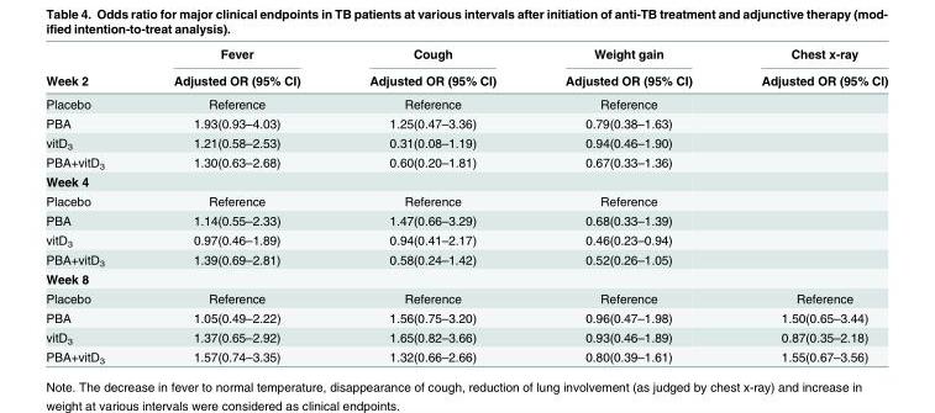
<table><thead><tr><td rowspan="2">Week 2</td><td rowspan="2">Fever Adjusted OR (95% CI)</td><td rowspan="2">Cough Adjusted OR (95% CI)</td><td rowspan="2">Weight gain Adjusted OR (95% CI)</td><td rowspan="2">Chest x-ray Adjusted OR (95% CI)</td></tr><tr></tr></thead><tbody><tr><td>Placebo</td><td>Reference</td><td>Reference</td><td>Reference</td><td></td></tr><tr><td>PBA</td><td>1.93(0.93–4.03)</td><td>1.25(0.47–3.36)</td><td>0.79(0.38–1.63)</td><td></td></tr><tr><td>vitD<sub>3</sub></td><td>1.21(0.58–2.53)</td><td>0.31(0.08–1.19)</td><td>0.94(0.46–1.90)</td><td></td></tr><tr><td>PBA+vitD<sub>3</sub></td><td>1.30(0.63–2.68)</td><td>0.60(0.20–1.81)</td><td>0.67(0.33–1.36)</td><td></td></tr><tr><td colspan="5">Week 4</td></tr><tr><td>Placebo</td><td>Reference</td><td>Reference</td><td>Reference</td><td></td></tr><tr><td>PBA</td><td>1.14(0.55–2.33)</td><td>1.47(0.66–3.29)</td><td>0.68(0.33–1.39)</td><td></td></tr><tr><td>vitD<sub>3</sub></td><td>0.97(0.46–1.89)</td><td>0.94(0.41–2.17)</td><td>0.46(0.23–0.94)</td><td></td></tr><tr><td>PBA+vitD<sub>3</sub></td><td>1.39(0.69–2.81)</td><td>0.58(0.24–1.42)</td><td>0.52(0.26–1.05)</td><td></td></tr><tr><td colspan="5">Week 8</td></tr><tr><td>Placebo</td><td>Reference</td><td>Reference</td><td>Reference</td><td>Reference</td></tr><tr><td>PBA</td><td>1.05(0.49–2.22)</td><td>1.56(0.75–3.20)</td><td>0.96(0.47–1.98)</td><td>1.50(0.65–3.44)</td></tr><tr><td>vitD<sub>3</sub></td><td>1.37(0.65–2.92)</td><td>1.65(0.82–3.66)</td><td>0.93(0.46–1.89)</td><td>0.87(0.35–2.18)</td></tr><tr><td>PBA+vitD<sub>3</sub></td><td>1.57(0.74–3.35)</td><td>1.32(0.66–2.66)</td><td>0.80(0.39–1.61)</td><td>1.55(0.67–3.56)</td></tr></tbody></table>